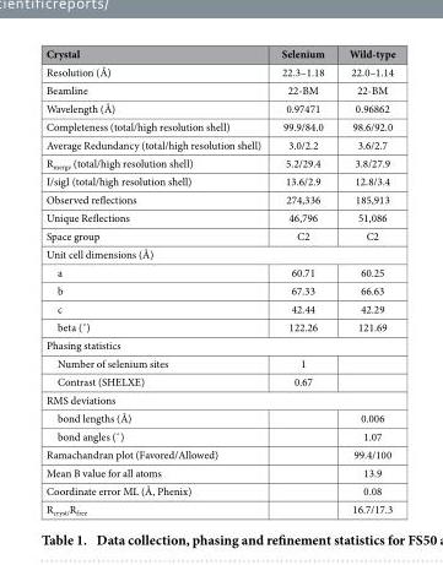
<table><thead><tr><td>Crystal</td><td>Selenium</td><td>Wild-type</td></tr></thead><tbody><tr><td>Resolution (Å)</td><td>22.3–1.18</td><td>22.0–1.14</td></tr><tr><td>Beamline</td><td>22-BM</td><td>22-BM</td></tr><tr><td>Wavelength (Å)</td><td>0.97471</td><td>0.96862</td></tr><tr><td>Completeness (total/high resolution shell)</td><td>99.9/84.0</td><td>98.6/92.0</td></tr><tr><td>Average Redundancy (total/high resolution shell)</td><td>3.0/2.2</td><td>3.6/2.7</td></tr><tr><td>R<sub>merge</sub> (total/high resolution shell)</td><td>5.2/29.4</td><td>3.8/27.9</td></tr><tr><td>I/sigI (total/high resolution shell)</td><td>13.6/2.9</td><td>12.8/3.4</td></tr><tr><td>Observed reflections</td><td>274,336</td><td>185,913</td></tr><tr><td>Unique Reflections</td><td>46,796</td><td>51,086</td></tr><tr><td>Space group</td><td>C2</td><td>C2</td></tr><tr><td colspan="3">Unit cell dimensions (Å)</td></tr><tr><td>a</td><td>60.71</td><td>60.25</td></tr><tr><td>b</td><td>67.33</td><td>66.63</td></tr><tr><td>c</td><td>42.44</td><td>42.29</td></tr><tr><td>beta (˚)</td><td>122.26</td><td>121.69</td></tr><tr><td colspan="3">Phasing statistics</td></tr><tr><td>Number of selenium sites</td><td>1</td><td></td></tr><tr><td>Contrast (SHELXE)</td><td>0.67</td><td></td></tr><tr><td colspan="3">RMS deviations</td></tr><tr><td>bond lengths (Å)</td><td></td><td>0.006</td></tr><tr><td>bond angles (˚)</td><td></td><td>1.07</td></tr><tr><td>Ramachandran plot (Favored/Allowed)</td><td></td><td>99.4/100</td></tr><tr><td>Mean B value for all atoms</td><td></td><td>13.9</td></tr><tr><td>Coordinate error ML (Å, Phenix)</td><td></td><td>0.08</td></tr><tr><td>R<sub>cryst/</sub>R<sub>free</sub></td><td></td><td>16.7/17.3</td></tr></tbody></table>